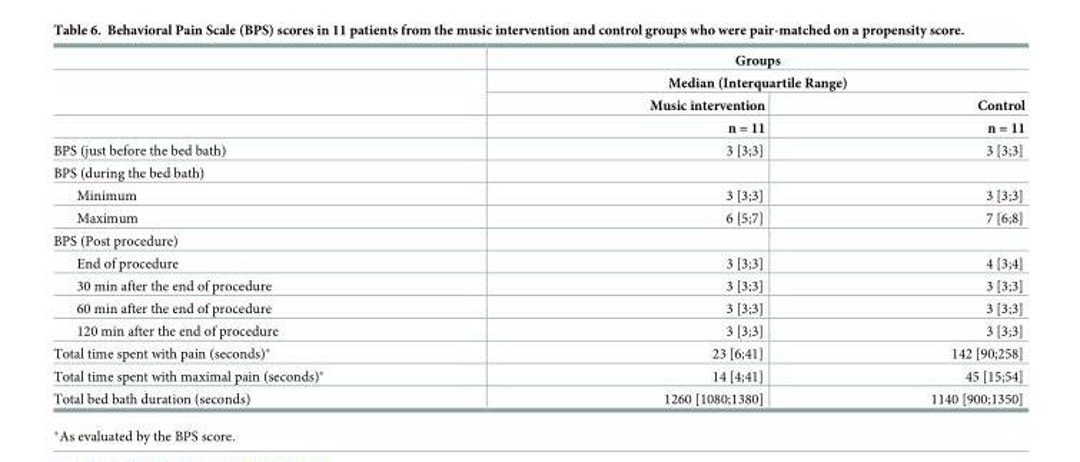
<table><thead><tr><td rowspan="4"></td><td rowspan="2" colspan="2">Groups Median (Interquartile Range)</td></tr><tr></tr><tr><td rowspan="2">Music intervention n = 11</td><td rowspan="2">Control n = 11</td></tr><tr></tr></thead><tbody><tr><td>BPS (just before the bed bath)</td><td>3 [3;3]</td><td>3 [3;3]</td></tr><tr><td colspan="3">BPS (during the bed bath)</td></tr><tr><td>Minimum</td><td>3 [3;3]</td><td>3 [3;3]</td></tr><tr><td>Maximum</td><td>6 [5;7]</td><td>7 [6;8]</td></tr><tr><td colspan="3">BPS (Post procedure)</td></tr><tr><td>End of procedure</td><td>3 [3;3]</td><td>4 [3;4]</td></tr><tr><td>30 min after the end of procedure</td><td>3 [3;3]</td><td>3 [3;3]</td></tr><tr><td>60 min after the end of procedure</td><td>3 [3;3]</td><td>3 [3;3]</td></tr><tr><td>120 min after the end of procedure</td><td>3 [3;3]</td><td>3 [3;3]</td></tr><tr><td>Total time spent with pain (seconds)*</td><td>23 [6;41]</td><td>142 [90;258]</td></tr><tr><td>Total time spent with maximal pain (seconds)*</td><td>14 [4;41]</td><td>45 [15;54]</td></tr><tr><td>Total bed bath duration (seconds)</td><td>1260 [1080;1380]</td><td>1140 [900;1350]</td></tr></tbody></table>